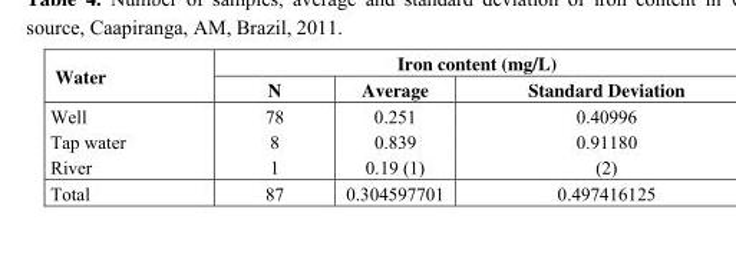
<table><thead><tr><td rowspan="2">Water</td><td colspan="3">Iron content (mg/L)</td></tr><tr><td>N</td><td>Average</td><td>Standard Deviation</td></tr></thead><tbody><tr><td>Well</td><td>78</td><td>0.251</td><td>0.40996</td></tr><tr><td>Tap water</td><td>8</td><td>0.839</td><td>0.91180</td></tr><tr><td>River</td><td>1</td><td>0.19 (1)</td><td>(2)</td></tr><tr><td>Total</td><td>87</td><td>0.304597701</td><td>0.497416125</td></tr></tbody></table>